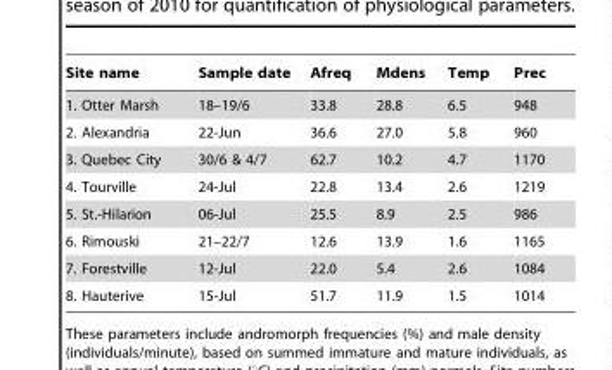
<table><thead><tr><td>Site name</td><td>Sample date</td><td>Afreq</td><td>Mdens</td><td>Temp</td><td>Prec</td></tr></thead><tbody><tr><td>1. Otter Marsh</td><td>18–19/6</td><td>33.8</td><td>28.8</td><td>6.5</td><td>948</td></tr><tr><td>2. Alexandria</td><td>22-Jun</td><td>36.6</td><td>27.0</td><td>5.8</td><td>960</td></tr><tr><td>3. Quebec City</td><td>30/6 &amp; 4/7</td><td>62.7</td><td>10.2</td><td>4.7</td><td>1170</td></tr><tr><td>4. Tourville</td><td>24-Jul</td><td>22.8</td><td>13.4</td><td>2.6</td><td>1219</td></tr><tr><td>5. St.-Hilarion</td><td>06-Jul</td><td>25.5</td><td>8.9</td><td>2.5</td><td>986</td></tr><tr><td>6. Rimouski</td><td>21–22/7</td><td>12.6</td><td>13.9</td><td>1.6</td><td>1165</td></tr><tr><td>7. Forestville</td><td>12-Jul</td><td>22.0</td><td>5.4</td><td>2.6</td><td>1084</td></tr><tr><td>8. Hauterive</td><td>15-Jul</td><td>51.7</td><td>11.9</td><td>1.5</td><td>1014</td></tr></tbody></table>